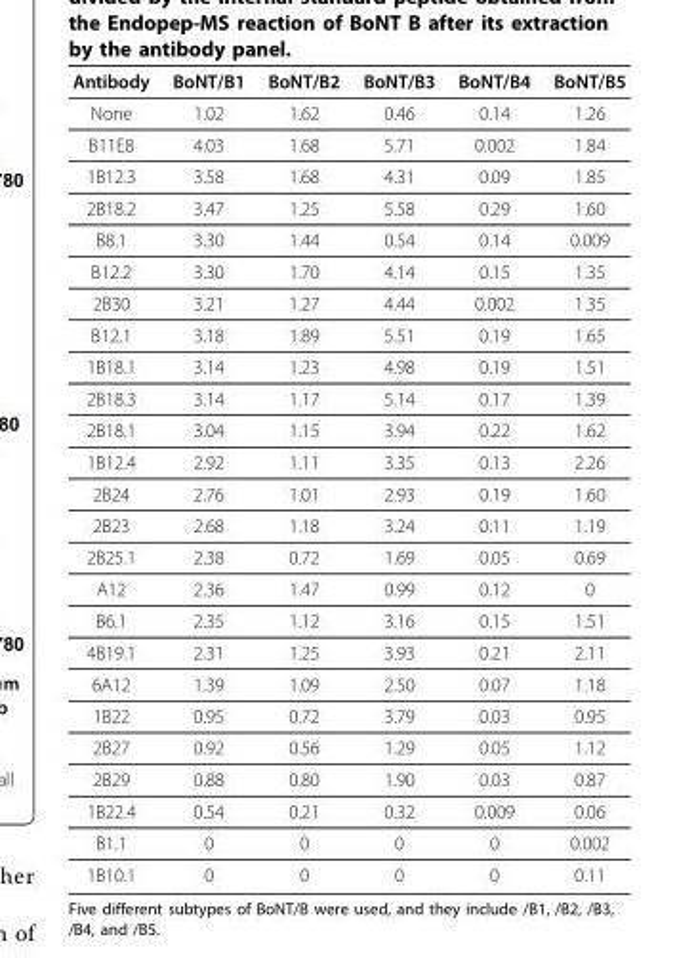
<table><thead><tr><td>Antibody</td><td>BoNT/B1</td><td>BoNT/B2</td><td>BoNT/B3</td><td>BoNT/B4</td><td>BoNT/B5</td></tr></thead><tbody><tr><td>None</td><td>1.02</td><td>1.62</td><td>0.46</td><td>0.14</td><td>1.26</td></tr><tr><td>B11E8</td><td>4.03</td><td>1.68</td><td>5.71</td><td>0.002</td><td>1.84</td></tr><tr><td>1B12.3</td><td>3.58</td><td>1.68</td><td>4.31</td><td>0.09</td><td>1.85</td></tr><tr><td>2B18.2</td><td>3.47</td><td>1.25</td><td>5.58</td><td>0.29</td><td>1.60</td></tr><tr><td>B8.1</td><td>3.30</td><td>1.44</td><td>0.54</td><td>0.14</td><td>0.009</td></tr><tr><td>B12.2</td><td>3.30</td><td>1.70</td><td>4.14</td><td>0.15</td><td>1.35</td></tr><tr><td>2B30</td><td>3.21</td><td>1.27</td><td>4.44</td><td>0.002</td><td>1.35</td></tr><tr><td>B12.1</td><td>3.18</td><td>1.89</td><td>5.51</td><td>0.19</td><td>1.65</td></tr><tr><td>1B18.1</td><td>3.14</td><td>1.23</td><td>4.98</td><td>0.19</td><td>1.51</td></tr><tr><td>2B18.3</td><td>3.14</td><td>1.17</td><td>5.14</td><td>0.17</td><td>1.39</td></tr><tr><td>2B18.1</td><td>3.04</td><td>1.15</td><td>3.94</td><td>0.22</td><td>1.62</td></tr><tr><td>1B12.4</td><td>2.92</td><td>1.11</td><td>3.35</td><td>0.13</td><td>2.26</td></tr><tr><td>2B24</td><td>2.76</td><td>1.01</td><td>2.93</td><td>0.19</td><td>1.60</td></tr><tr><td>2B23</td><td>2.68</td><td>1.18</td><td>3.24</td><td>0.11</td><td>1.19</td></tr><tr><td>2B25.1</td><td>2.38</td><td>0.72</td><td>1.69</td><td>0.05</td><td>0.69</td></tr><tr><td>A12</td><td>2.36</td><td>1.47</td><td>0.99</td><td>0.12</td><td>0</td></tr><tr><td>B6.1</td><td>2.35</td><td>1.12</td><td>3.16</td><td>0.15</td><td>1.51</td></tr><tr><td>4B19.1</td><td>2.31</td><td>1.25</td><td>3.93</td><td>0.21</td><td>2.11</td></tr><tr><td>6A12</td><td>1.39</td><td>1.09</td><td>2.50</td><td>0.07</td><td>1.18</td></tr><tr><td>1B22</td><td>0.95</td><td>0.72</td><td>3.79</td><td>0.03</td><td>0.95</td></tr><tr><td>2B27</td><td>0.92</td><td>0.56</td><td>1.29</td><td>0.05</td><td>1.12</td></tr><tr><td>2B29</td><td>0.88</td><td>0.80</td><td>1.90</td><td>0.03</td><td>0.87</td></tr><tr><td>1B22.4</td><td>0.54</td><td>0.21</td><td>0.32</td><td>0.009</td><td>0.06</td></tr><tr><td>B1.1</td><td>0</td><td>0</td><td>0</td><td>0</td><td>0.002</td></tr><tr><td>1B10.1</td><td>0</td><td>0</td><td>0</td><td>0</td><td>0.11</td></tr></tbody></table>